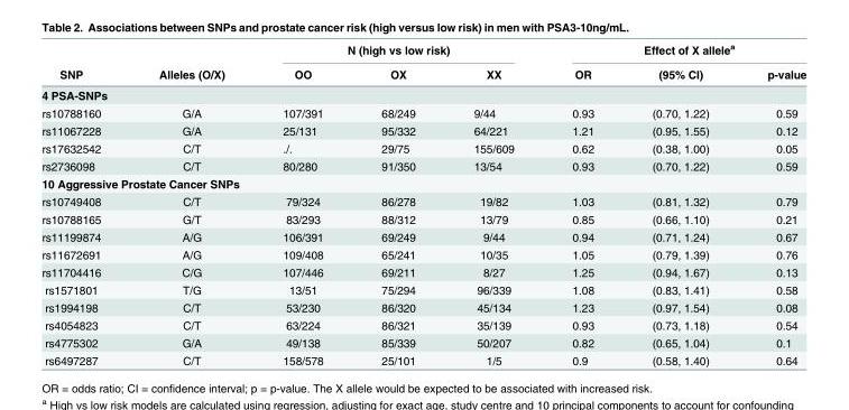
<table><thead><tr><td rowspan="2">SNP</td><td rowspan="2">Alleles (O/X)</td><td colspan="3">N (high vs low risk)</td><td colspan="3">Effect of X allele<sup>a</sup></td></tr><tr><td>OO</td><td>OX</td><td>XX</td><td>OR</td><td>(95% CI)</td><td>p-value</td></tr></thead><tbody><tr><td colspan="8">4 PSA-SNPs</td></tr><tr><td>rs10788160</td><td>G/A</td><td>107/391</td><td>68/249</td><td>9/44</td><td>0.93</td><td>(0.70, 1.22)</td><td>0.59</td></tr><tr><td>rs11067228</td><td>G/A</td><td>25/131</td><td>95/332</td><td>64/221</td><td>1.21</td><td>(0.95, 1.55)</td><td>0.12</td></tr><tr><td>rs17632542</td><td>C/T</td><td>./.</td><td>29/75</td><td>155/609</td><td>0.62</td><td>(0.38, 1.00)</td><td>0.05</td></tr><tr><td>rs2736098</td><td>C/T</td><td>80/280</td><td>91/350</td><td>13/54</td><td>0.93</td><td>(0.70, 1.22)</td><td>0.59</td></tr><tr><td colspan="8">10 Aggressive Prostate Cancer SNPs</td></tr><tr><td>rs10749408</td><td>C/T</td><td>79/324</td><td>86/278</td><td>19/82</td><td>1.03</td><td>(0.81, 1.32)</td><td>0.79</td></tr><tr><td>rs10788165</td><td>G/T</td><td>83/293</td><td>88/312</td><td>13/79</td><td>0.85</td><td>(0.66, 1.10)</td><td>0.21</td></tr><tr><td>rs11199874</td><td>A/G</td><td>106/391</td><td>69/249</td><td>9/44</td><td>0.94</td><td>(0.71, 1.24)</td><td>0.67</td></tr><tr><td>rs11672691</td><td>A/G</td><td>109/408</td><td>65/241</td><td>10/35</td><td>1.05</td><td>(0.79, 1.39)</td><td>0.76</td></tr><tr><td>rs11704416</td><td>C/G</td><td>107/446</td><td>69/211</td><td>8/27</td><td>1.25</td><td>(0.94, 1.67)</td><td>0.13</td></tr><tr><td>rs1571801</td><td>T/G</td><td>13/51</td><td>75/294</td><td>96/339</td><td>1.08</td><td>(0.83, 1.41)</td><td>0.58</td></tr><tr><td>rs1994198</td><td>C/T</td><td>53/230</td><td>86/320</td><td>45/134</td><td>1.23</td><td>(0.97, 1.54)</td><td>0.08</td></tr><tr><td>rs4054823</td><td>C/T</td><td>63/224</td><td>86/321</td><td>35/139</td><td>0.93</td><td>(0.73, 1.18)</td><td>0.54</td></tr><tr><td>rs4775302</td><td>G/A</td><td>49/138</td><td>85/339</td><td>50/207</td><td>0.82</td><td>(0.65, 1.04)</td><td>0.1</td></tr><tr><td>rs6497287</td><td>C/T</td><td>158/578</td><td>25/101</td><td>1/5</td><td>0.9</td><td>(0.58, 1.40)</td><td>0.64</td></tr></tbody></table>